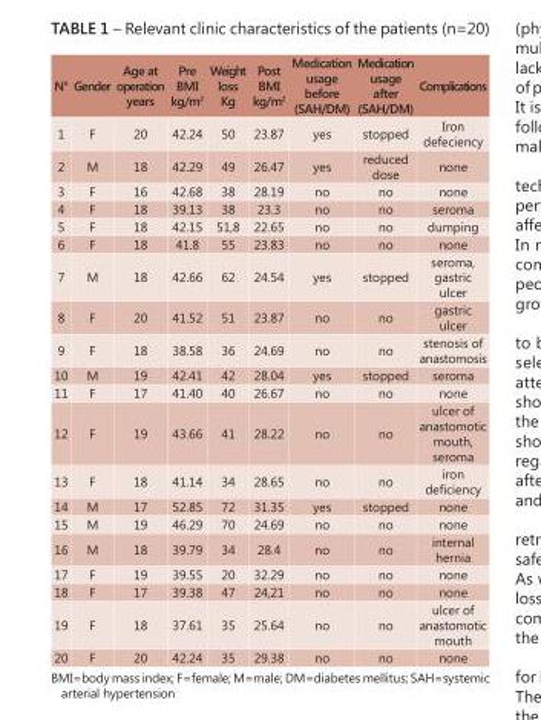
<table><thead><tr><td>N°</td><td>Gender</td><td>Age at operation years</td><td>Pre BMI kg/m2</td><td>Weight loss Kg</td><td>Post BMI kg/m2</td><td>Medication usage before (SAH/DM)</td><td>Medication usage after (SAH/DM)</td><td>Complications</td></tr></thead><tbody><tr><td>1</td><td>F</td><td>20</td><td>42.24</td><td>50</td><td>23.87</td><td>yes</td><td>stopped</td><td>Iron defeciency</td></tr><tr><td>2</td><td>M</td><td>18</td><td>42.29</td><td>49</td><td>26.47</td><td>yes</td><td>reduced dose</td><td>none</td></tr><tr><td>3</td><td>F</td><td>16</td><td>42.68</td><td>38</td><td>28.19</td><td>no</td><td>no</td><td>none</td></tr><tr><td>4</td><td>F</td><td>18</td><td>39.13</td><td>38</td><td>23.3</td><td>no</td><td>no</td><td>seroma</td></tr><tr><td>5</td><td>F</td><td>18</td><td>42.15</td><td>51,8</td><td>22.65</td><td>no</td><td>no</td><td>dumping</td></tr><tr><td>6</td><td>F</td><td>18</td><td>41.8</td><td>55</td><td>23.83</td><td>no</td><td>no</td><td>none</td></tr><tr><td>7</td><td>M</td><td>18</td><td>42.66</td><td>62</td><td>24.54</td><td>yes</td><td>stopped</td><td>seroma, gastric ulcer</td></tr><tr><td>8</td><td>F</td><td>20</td><td>41.52</td><td>51</td><td>23.87</td><td>no</td><td>no</td><td>gastric ulcer</td></tr><tr><td>9</td><td>F</td><td>18</td><td>38.58</td><td>36</td><td>24.69</td><td>no</td><td>no</td><td>stenosis of anastomosis</td></tr><tr><td>10</td><td>M</td><td>19</td><td>42.41</td><td>42</td><td>28.04</td><td>yes</td><td>stopped</td><td>seroma</td></tr><tr><td>11</td><td>F</td><td>17</td><td>41.40</td><td>40</td><td>26.67</td><td>no</td><td>no</td><td>none</td></tr><tr><td>12</td><td>F</td><td>19</td><td>43.66</td><td>41</td><td>28.22</td><td>no</td><td>no</td><td>ulcer of anastomotic mouth, seroma</td></tr><tr><td>13</td><td>F</td><td>18</td><td>41.14</td><td>34</td><td>28.65</td><td>no</td><td>no</td><td>iron deficiency</td></tr><tr><td>14</td><td>M</td><td>17</td><td>52.85</td><td>72</td><td>31.35</td><td>yes</td><td>stopped</td><td>none</td></tr><tr><td>15</td><td>M</td><td>19</td><td>46.29</td><td>70</td><td>24.69</td><td>no</td><td>no</td><td>none</td></tr><tr><td>16</td><td>M</td><td>18</td><td>39.79</td><td>34</td><td>28.4</td><td>no</td><td>no</td><td>internal hernia</td></tr><tr><td>17</td><td>F</td><td>19</td><td>39.55</td><td>20</td><td>32.29</td><td>no</td><td>no</td><td>none</td></tr><tr><td>18</td><td>F</td><td>17</td><td>39.38</td><td>47</td><td>24,21</td><td>no</td><td>no</td><td>none</td></tr><tr><td>19</td><td>F</td><td>18</td><td>37.61</td><td>35</td><td>25.64</td><td>no</td><td>no</td><td>ulcer of anastomotic mouth</td></tr><tr><td>20</td><td>F</td><td>20</td><td>42.24</td><td>35</td><td>29.38</td><td>no</td><td>no</td><td>none</td></tr></tbody></table>